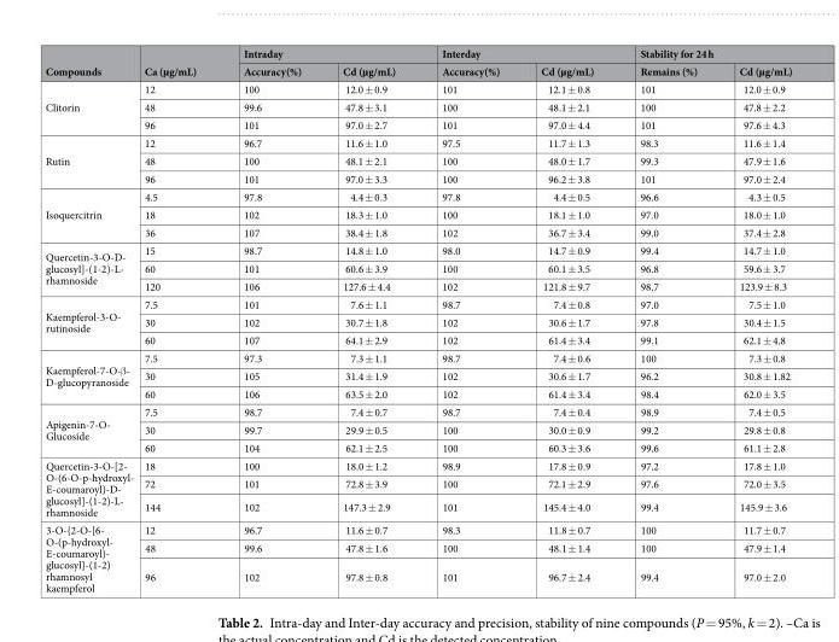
<table><thead><tr><td rowspan="2">Compounds</td><td rowspan="2">Ca (µg/mL)</td><td colspan="2">Intraday</td><td colspan="2">Interday</td><td colspan="2">Stability for 24 h</td></tr><tr><td>Accuracy(%)</td><td>Cd (µg/mL)</td><td>Accuracy(%)</td><td>Cd (µg/mL)</td><td>Remains (%)</td><td>Cd (µg/mL)</td></tr></thead><tbody><tr><td rowspan="3">Clitorin</td><td>12</td><td>100</td><td>12.0 ± 0.9</td><td>101</td><td>12.1 ± 0.8</td><td>101</td><td>12.0 ± 0.9</td></tr><tr><td>48</td><td>99.6</td><td>47.8 ± 3.1</td><td>100</td><td>48.1 ± 2.1</td><td>100</td><td>47.8 ± 2.2</td></tr><tr><td>96</td><td>101</td><td>97.0 ± 2.7</td><td>101</td><td>97.0 ± 4.4</td><td>101</td><td>97.6 ± 4.3</td></tr><tr><td rowspan="3">Rutin</td><td>12</td><td>96.7</td><td>11.6 ± 1.0</td><td>97.5</td><td>11.7 ± 1.3</td><td>98.3</td><td>11.6 ± 1.4</td></tr><tr><td>48</td><td>100</td><td>48.1 ± 2.1</td><td>100</td><td>48.0 ± 1.7</td><td>99.3</td><td>47.9 ± 1.6</td></tr><tr><td>96</td><td>101</td><td>97.0 ± 3.3</td><td>100</td><td>96.2 ± 3.8</td><td>101</td><td>97.0 ± 2.4</td></tr><tr><td rowspan="3">Isoquercitrin</td><td>4.5</td><td>97.8</td><td>4.4 ± 0.3</td><td>97.8</td><td>4.4 ± 0.5</td><td>96.6</td><td>4.3 ± 0.5</td></tr><tr><td>18</td><td>102</td><td>18.3 ± 1.0</td><td>100</td><td>18.1 ± 1.0</td><td>97.0</td><td>18.0 ± 1.0</td></tr><tr><td>36</td><td>107</td><td>38.4 ± 1.8</td><td>102</td><td>36.7 ± 3.4</td><td>99.0</td><td>37.4 ± 2.8</td></tr><tr><td rowspan="3">Quercetin-3-O-D- glucosyl]-(1-2)-L- rhamnoside</td><td>15</td><td>98.7</td><td>14.8 ± 1.0</td><td>98.0</td><td>14.7 ± 0.9</td><td>99.4</td><td>14.7 ± 1.0</td></tr><tr><td>60</td><td>101</td><td>60.6 ± 3.9</td><td>100</td><td>60.1 ± 3.5</td><td>96.8</td><td>59.6 ± 3.7</td></tr><tr><td>120</td><td>106</td><td>127.6 ± 4.4</td><td>102</td><td>121.8 ± 9.7</td><td>98.7</td><td>123.9 ± 8.3</td></tr><tr><td rowspan="3">Kaempferol-3-O- rutinoside</td><td>7.5</td><td>101</td><td>7.6 ± 1.1</td><td>98.7</td><td>7.4 ± 0.8</td><td>97.0</td><td>7.5 ± 1.0</td></tr><tr><td>30</td><td>102</td><td>30.7 ± 1.8</td><td>102</td><td>30.6 ± 1.7</td><td>97.8</td><td>30.4 ± 1.5</td></tr><tr><td>60</td><td>107</td><td>64.1 ± 2.9</td><td>102</td><td>61.4 ± 3.4</td><td>99.1</td><td>62.1 ± 4.8</td></tr><tr><td rowspan="3">Kaempferol-7-O-β- D-glucopyranoside</td><td>7.5</td><td>97.3</td><td>7.3 ± 1.1</td><td>98.7</td><td>7.4 ± 0.6</td><td>100</td><td>7.3 ± 0.8</td></tr><tr><td>30</td><td>105</td><td>31.4 ± 1.9</td><td>102</td><td>30.6 ± 1.7</td><td>96.2</td><td>30.8 ± 1.82</td></tr><tr><td>60</td><td>106</td><td>63.5 ± 2.0</td><td>102</td><td>61.4 ± 3.4</td><td>98.4</td><td>62.0 ± 3.5</td></tr><tr><td rowspan="3">Apigenin-7-O- Glucoside</td><td>7.5</td><td>98.7</td><td>7.4 ± 0.7</td><td>98.7</td><td>7.4 ± 0.4</td><td>98.9</td><td>7.4 ± 0.5</td></tr><tr><td>30</td><td>99.7</td><td>29.9 ± 0.5</td><td>100</td><td>30.0 ± 0.9</td><td>99.2</td><td>29.8 ± 0.8</td></tr><tr><td>60</td><td>104</td><td>62.1 ± 2.5</td><td>100</td><td>60.3 ± 3.6</td><td>99.6</td><td>61.1 ± 2.8</td></tr><tr><td rowspan="3">Quercetin-3-O-[2- O-(6-O-p-hydroxyl- E-coumaroyl)-D- glucosyl]-(1-2)-L- rhamnoside</td><td>18</td><td>100</td><td>18.0 ± 1.2</td><td>98.9</td><td>17.8 ± 0.9</td><td>97.2</td><td>17.8 ± 1.0</td></tr><tr><td>72</td><td>101</td><td>72.8 ± 3.9</td><td>100</td><td>72.1 ± 2.9</td><td>97.6</td><td>72.0 ± 3.5</td></tr><tr><td>144</td><td>102</td><td>147.3 ± 2.9</td><td>101</td><td>145.4 ± 4.0</td><td>99.4</td><td>145.9 ± 3.6</td></tr><tr><td rowspan="3">3-O-{2-O-[6- O-(p-hydroxyl- E-coumaroyl)- glucosyl]-(1-2) rhamnosyl kaempferol</td><td>12</td><td>96.7</td><td>11.6 ± 0.7</td><td>98.3</td><td>11.8 ± 0.7</td><td>100</td><td>11.7 ± 0.7</td></tr><tr><td>48</td><td>99.6</td><td>47.8 ± 1.6</td><td>100</td><td>48.1 ± 1.4</td><td>100</td><td>47.9 ± 1.4</td></tr><tr><td>96</td><td>102</td><td>97.8 ± 0.8</td><td>101</td><td>96.7 ± 2.4</td><td>99.4</td><td>97.0 ± 2.0</td></tr></tbody></table>